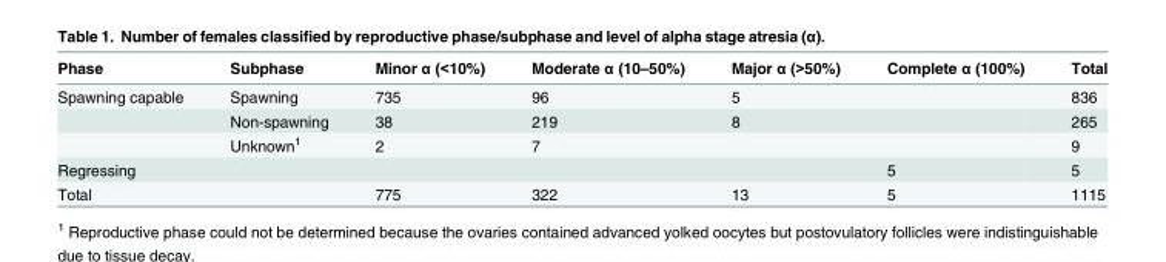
<table><thead><tr><td>Phase</td><td>Subphase</td><td>Minor α (&lt;10%)</td><td>Moderate α (10–50%)</td><td>Major α (&gt;50%)</td><td>Complete α (100%)</td><td>Total</td></tr></thead><tbody><tr><td rowspan="3">Spawning capable</td><td>Spawning</td><td>735</td><td>96</td><td>5</td><td></td><td>836</td></tr><tr><td>Non-spawning</td><td>38</td><td>219</td><td>8</td><td></td><td>265</td></tr><tr><td>Unknown<sup>1</sup></td><td>2</td><td>7</td><td></td><td></td><td>9</td></tr><tr><td>Regressing</td><td></td><td></td><td></td><td></td><td>5</td><td>5</td></tr><tr><td>Total</td><td></td><td>775</td><td>322</td><td>13</td><td>5</td><td>1115</td></tr></tbody></table>